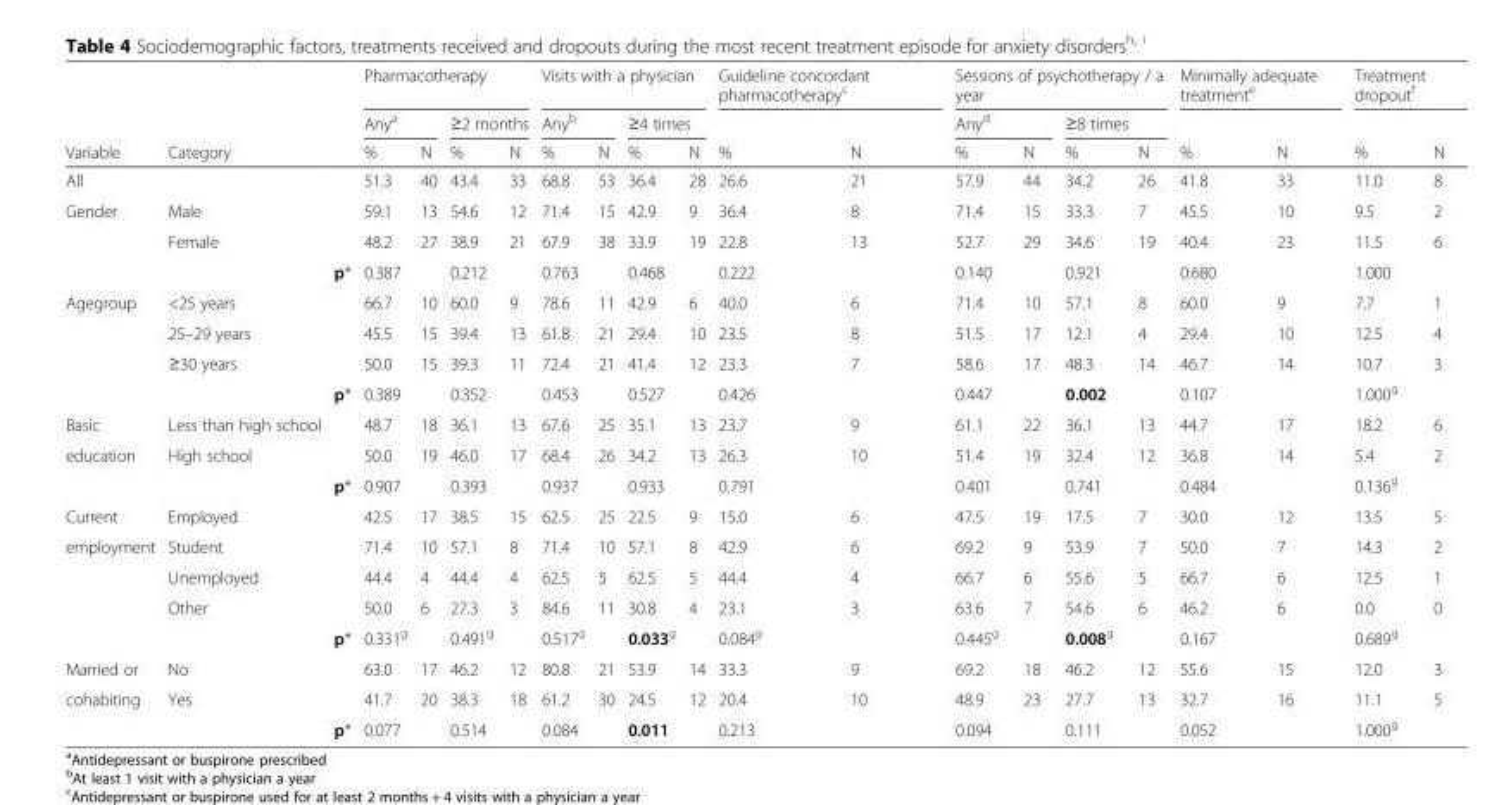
<table><thead><tr><td rowspan="3">Variable</td><td rowspan="3">Category</td><td rowspan="3"></td><td colspan="4">Pharmacotherapy</td><td colspan="4">Visits with a physician</td><td colspan="2">Guideline concordant pharmacotherapy<sup>c</sup></td><td colspan="4">Sessions of psychotherapy / a year</td><td colspan="2">Minimally adequate treatment<sup>e</sup></td><td colspan="2">Treatment dropout<sup>f</sup></td></tr><tr><td colspan="2">Any<sup>a</sup></td><td colspan="2">≥2 months</td><td colspan="2">Any<sup>b</sup></td><td colspan="2">≥4 times</td><td rowspan="2">%</td><td rowspan="2">N</td><td colspan="2">Any<sup>d</sup></td><td colspan="2">≥8 times</td><td rowspan="2">%</td><td rowspan="2">N</td><td rowspan="2">%</td><td rowspan="2">N</td></tr><tr><td>%</td><td>N</td><td>%</td><td>N</td><td>%</td><td>N</td><td>%</td><td>N</td><td>%</td><td>N</td><td>%</td><td>N</td></tr></thead><tbody><tr><td>All</td><td></td><td></td><td>51.3</td><td>40</td><td>43.4</td><td>33</td><td>68.8</td><td>53</td><td>36.4</td><td>28</td><td>26.6</td><td>21</td><td>57.9</td><td>44</td><td>34.2</td><td>26</td><td>41.8</td><td>33</td><td>11.0</td><td>8</td></tr><tr><td rowspan="3">Gender</td><td>Male</td><td></td><td>59.1</td><td>13</td><td>54.6</td><td>12</td><td>71.4</td><td>15</td><td>42.9</td><td>9</td><td>36.4</td><td>8</td><td>71.4</td><td>15</td><td>33.3</td><td>7</td><td>45.5</td><td>10</td><td>9.5</td><td>2</td></tr><tr><td>Female</td><td></td><td>48.2</td><td>27</td><td>38.9</td><td>21</td><td>67.9</td><td>38</td><td>33.9</td><td>19</td><td>22.8</td><td>13</td><td>52.7</td><td>29</td><td>34.6</td><td>19</td><td>40.4</td><td>23</td><td>11.5</td><td>6</td></tr><tr><td></td><td>p*</td><td>0.387</td><td></td><td>0.212</td><td></td><td>0.763</td><td></td><td>0.468</td><td></td><td>0.222</td><td></td><td>0.140</td><td></td><td>0.921</td><td></td><td>0.680</td><td></td><td>1.000</td><td></td></tr><tr><td rowspan="4">Agegroup</td><td>&lt;25 years</td><td></td><td>66.7</td><td>10</td><td>60.0</td><td>9</td><td>78.6</td><td>11</td><td>42.9</td><td>6</td><td>40.0</td><td>6</td><td>71.4</td><td>10</td><td>57.1</td><td>8</td><td>60.0</td><td>9</td><td>7.7</td><td>1</td></tr><tr><td>25–29 years</td><td></td><td>45.5</td><td>15</td><td>39.4</td><td>13</td><td>61.8</td><td>21</td><td>29.4</td><td>10</td><td>23.5</td><td>8</td><td>51.5</td><td>17</td><td>12.1</td><td>4</td><td>29.4</td><td>10</td><td>12.5</td><td>4</td></tr><tr><td>≥30 years</td><td></td><td>50.0</td><td>15</td><td>39.3</td><td>11</td><td>72.4</td><td>21</td><td>41.4</td><td>12</td><td>23.3</td><td>7</td><td>58.6</td><td>17</td><td>48.3</td><td>14</td><td>46.7</td><td>14</td><td>10.7</td><td>3</td></tr><tr><td></td><td>p*</td><td>0.389</td><td></td><td>0.352</td><td></td><td>0.453</td><td></td><td>0.527</td><td></td><td>0.426</td><td></td><td>0.447</td><td></td><td>0.002</td><td></td><td>0.107</td><td></td><td>1.000<sup>g</sup></td><td></td></tr><tr><td>Basic</td><td>Less than high school</td><td></td><td>48.7</td><td>18</td><td>36.1</td><td>13</td><td>67.6</td><td>25</td><td>35.1</td><td>13</td><td>23.7</td><td>9</td><td>61.1</td><td>22</td><td>36.1</td><td>13</td><td>44.7</td><td>17</td><td>18.2</td><td>6</td></tr><tr><td rowspan="2">education</td><td>High school</td><td></td><td>50.0</td><td>19</td><td>46.0</td><td>17</td><td>68.4</td><td>26</td><td>34.2</td><td>13</td><td>26.3</td><td>10</td><td>51.4</td><td>19</td><td>32.4</td><td>12</td><td>36.8</td><td>14</td><td>5.4</td><td>2</td></tr><tr><td></td><td>p*</td><td>0.907</td><td></td><td>0.393</td><td></td><td>0.937</td><td></td><td>0.933</td><td></td><td>0.791</td><td></td><td>0.401</td><td></td><td>0.741</td><td></td><td>0.484</td><td></td><td>0.136<sup>g</sup></td><td></td></tr><tr><td>Current</td><td>Employed</td><td></td><td>42.5</td><td>17</td><td>38.5</td><td>15</td><td>62.5</td><td>25</td><td>22.5</td><td>9</td><td>15.0</td><td>6</td><td>47.5</td><td>19</td><td>17.5</td><td>7</td><td>30.0</td><td>12</td><td>13.5</td><td>5</td></tr><tr><td rowspan="4">employment</td><td>Student</td><td></td><td>71.4</td><td>10</td><td>57.1</td><td>8</td><td>71.4</td><td>10</td><td>57.1</td><td>8</td><td>42.9</td><td>6</td><td>69.2</td><td>9</td><td>53.9</td><td>7</td><td>50.0</td><td>7</td><td>14.3</td><td>2</td></tr><tr><td>Unemployed</td><td></td><td>44.4</td><td>4</td><td>44.4</td><td>4</td><td>62.5</td><td>5</td><td>62.5</td><td>5</td><td>44.4</td><td>4</td><td>66.7</td><td>6</td><td>55.6</td><td>5</td><td>66.7</td><td>6</td><td>12.5</td><td>1</td></tr><tr><td>Other</td><td></td><td>50.0</td><td>6</td><td>27.3</td><td>3</td><td>84.6</td><td>11</td><td>30.8</td><td>4</td><td>23.1</td><td>3</td><td>63.6</td><td>7</td><td>54.6</td><td>6</td><td>46.2</td><td>6</td><td>0.0</td><td>0</td></tr><tr><td></td><td>p*</td><td>0.331<sup>g</sup></td><td></td><td>0.491<sup>g</sup></td><td></td><td>0.517<sup>g</sup></td><td></td><td>0.033<sup>g</sup></td><td></td><td>0.084<sup>g</sup></td><td></td><td>0.445<sup>g</sup></td><td></td><td>0.008<sup>g</sup></td><td></td><td>0.167</td><td></td><td>0.689<sup>g</sup></td><td></td></tr><tr><td>Married or</td><td>No</td><td></td><td>63.0</td><td>17</td><td>46.2</td><td>12</td><td>80.8</td><td>21</td><td>53.9</td><td>14</td><td>33.3</td><td>9</td><td>69.2</td><td>18</td><td>46.2</td><td>12</td><td>55.6</td><td>15</td><td>12.0</td><td>3</td></tr><tr><td rowspan="2">cohabiting</td><td>Yes</td><td></td><td>41.7</td><td>20</td><td>38.3</td><td>18</td><td>61.2</td><td>30</td><td>24.5</td><td>12</td><td>20.4</td><td>10</td><td>48.9</td><td>23</td><td>27.7</td><td>13</td><td>32.7</td><td>16</td><td>11.1</td><td>5</td></tr><tr><td></td><td>p*</td><td>0.077</td><td></td><td>0.514</td><td></td><td>0.084</td><td></td><td>0.011</td><td></td><td>0.213</td><td></td><td>0.094</td><td></td><td>0.111</td><td></td><td>0.052</td><td></td><td>1.000<sup>g</sup></td><td></td></tr></tbody></table>